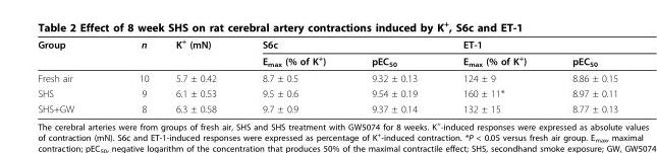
<table><thead><tr><td rowspan="2">Group</td><td rowspan="2">n</td><td rowspan="2">K<sup>+</sup> (mN)</td><td colspan="2">S6c</td><td colspan="2">ET-1</td></tr><tr><td>E<sub>max</sub> (% of K<sup>+</sup>)</td><td>pEC<sub>50</sub></td><td>E<sub>max</sub> (% of K<sup>+</sup>)</td><td>pEC<sub>50</sub></td></tr></thead><tbody><tr><td>Fresh air</td><td>10</td><td>5.7 ± 0.42</td><td>8.7 ± 0.5</td><td>9.32 ± 0.13</td><td>124 ± 9</td><td>8.86 ± 0.15</td></tr><tr><td>SHS</td><td>9</td><td>6.1 ± 0.53</td><td>9.5 ± 0.6</td><td>9.54 ± 0.19</td><td>160 ± 11*</td><td>8.97 ± 0.11</td></tr><tr><td>SHS+GW</td><td>8</td><td>6.3 ± 0.58</td><td>9.7 ± 0.9</td><td>9.37 ± 0.14</td><td>132 ± 15</td><td>8.77 ± 0.13</td></tr></tbody></table>